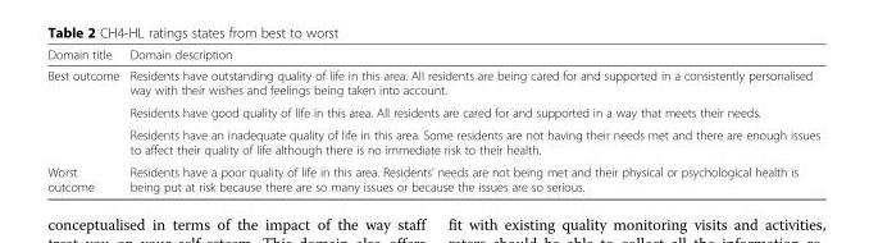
<table><thead><tr><td>Domain title</td><td>Domain description</td></tr></thead><tbody><tr><td rowspan="3">Best outcome</td><td>Residents have outstanding quality of life in this area. All residents are being cared for and supported in a consistently personalised way with their wishes and feelings being taken into account.</td></tr><tr><td>Residents have good quality of life in this area. All residents are cared for and supported in a way that meets their needs.</td></tr><tr><td>Residents have an inadequate quality of life in this area. Some residents are not having their needs met and there are enough issues to affect their quality of life although there is no immediate risk to their health.</td></tr><tr><td>Worst outcome</td><td>Residents have a poor quality of life in this area. Residents’ needs are not being met and their physical or psychological health is being put at risk because there are so many issues or because the issues are so serious.</td></tr></tbody></table>